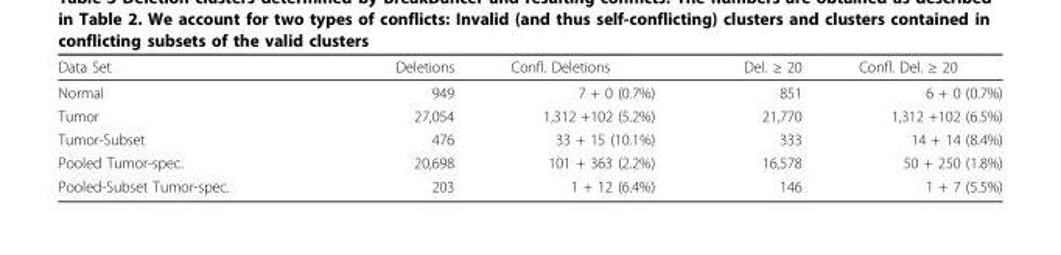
<table><thead><tr><td>Data Set</td><td>Deletions</td><td>Confl. Deletions</td><td>Del. ≥ 20</td><td>Confl. Del. ≥ 20</td></tr></thead><tbody><tr><td>Normal</td><td>949</td><td>7 + 0 (0.7%)</td><td>851</td><td>6 + 0 (0.7%)</td></tr><tr><td>Tumor</td><td>27,054</td><td>1,312 +102 (5.2%)</td><td>21,770</td><td>1,312 +102 (6.5%)</td></tr><tr><td>Tumor-Subset</td><td>476</td><td>33 + 15 (10.1%)</td><td>333</td><td>14 + 14 (8.4%)</td></tr><tr><td>Pooled Tumor-spec.</td><td>20,698</td><td>101 + 363 (2.2%)</td><td>16,578</td><td>50 + 250 (1.8%)</td></tr><tr><td>Pooled-Subset Tumor-spec.</td><td>203</td><td>1 + 12 (6.4%)</td><td>146</td><td>1 + 7 (5.5%)</td></tr></tbody></table>